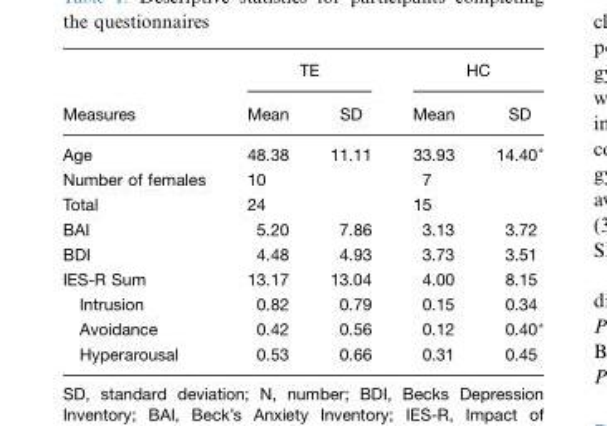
<table><thead><tr><td rowspan="2">Measures</td><td colspan="2">TE</td><td colspan="2">HC</td></tr><tr><td>Mean</td><td>SD</td><td>Mean</td><td>SD</td></tr></thead><tbody><tr><td>Age</td><td>48.38</td><td>11.11</td><td>33.93</td><td>14.40+</td></tr><tr><td>Number of females</td><td>10</td><td></td><td>7</td><td></td></tr><tr><td>Total</td><td>24</td><td></td><td>15</td><td></td></tr><tr><td>BAI</td><td>5.20</td><td>7.86</td><td>3.13</td><td>3.72</td></tr><tr><td>BDI</td><td>4.48</td><td>4.93</td><td>3.73</td><td>3.51</td></tr><tr><td>IES-R Sum</td><td>13.17</td><td>13.04</td><td>4.00</td><td>8.15</td></tr><tr><td>Intrusion</td><td>0.82</td><td>0.79</td><td>0.15</td><td>0.34</td></tr><tr><td>Avoidance</td><td>0.42</td><td>0.56</td><td>0.12</td><td>0.40+</td></tr><tr><td>Hyperarousal</td><td>0.53</td><td>0.66</td><td>0.31</td><td>0.45</td></tr></tbody></table>